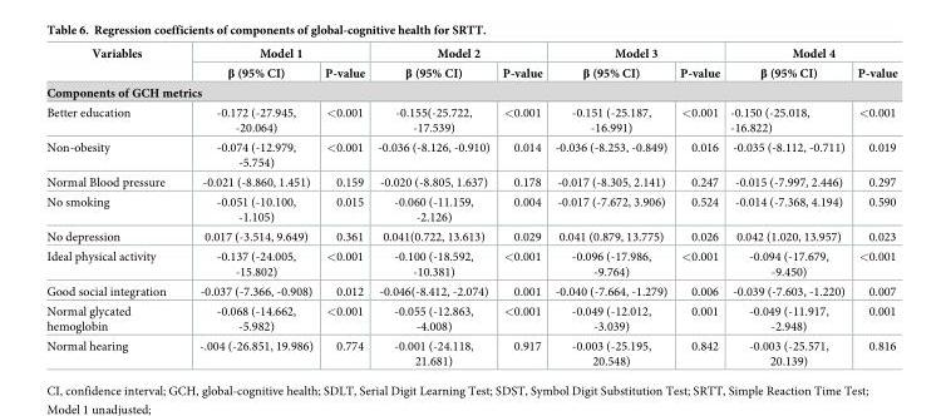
<table><thead><tr><td rowspan="2">Variables</td><td colspan="2">Model 1</td><td colspan="2">Model 2</td><td colspan="2">Model 3</td><td colspan="2">Model 4</td></tr><tr><td>β (95% CI)</td><td>P-value</td><td>β (95% CI)</td><td>P-value</td><td>β (95% CI)</td><td>P-value</td><td>β (95% CI)</td><td>P-value</td></tr><tr><td colspan="9">Components of GCH metrics</td></tr></thead><tbody><tr><td>Better education</td><td>-0.172 (-27.945, -20.064)</td><td>&lt;0.001</td><td>-0.155(-25.722, -17.539)</td><td>&lt;0.001</td><td>-0.151 (-25.187, -16.991)</td><td>&lt;0.001</td><td>-0.150 (-25.018, -16.822)</td><td>&lt;0.001</td></tr><tr><td>Non-obesity</td><td>-0.074 (-12.979, -5.754)</td><td>&lt;0.001</td><td>-0.036 (-8.126, -0.910)</td><td>0.014</td><td>-0.036 (-8.253, -0.849)</td><td>0.016</td><td>-0.035 (-8.112, -0.711)</td><td>0.019</td></tr><tr><td>Normal Blood pressure</td><td>-0.021 (-8.860, 1.451)</td><td>0.159</td><td>-0.020 (-8.805, 1.637)</td><td>0.178</td><td>-0.017 (-8.305, 2.141)</td><td>0.247</td><td>-0.015 (-7.997, 2.446)</td><td>0.297</td></tr><tr><td>No smoking</td><td>-0.051 (-10.100, -1.105)</td><td>0.015</td><td>-0.060 (-11.159, -2.126)</td><td>0.004</td><td>-0.017 (-7.672, 3.906)</td><td>0.524</td><td>-0.014 (-7.368, 4.194)</td><td>0.590</td></tr><tr><td>No depression</td><td>0.017 (-3.514, 9.649)</td><td>0.361</td><td>0.041(0.722, 13.613)</td><td>0.029</td><td>0.041 (0.879, 13.775)</td><td>0.026</td><td>0.042 (1.020, 13.957)</td><td>0.023</td></tr><tr><td>Ideal physical activity</td><td>-0.137 (-24.005, -15.802)</td><td>&lt;0.001</td><td>-0.100 (-18.592, -10.381)</td><td>&lt;0.001</td><td>-0.096 (-17.986, -9.764)</td><td>&lt;0.001</td><td>-0.094 (-17.679, -9.450)</td><td>&lt;0.001</td></tr><tr><td>Good social integration</td><td>-0.037 (-7.366, -0.908)</td><td>0.012</td><td>-0.046(-8.412, -2.074)</td><td>0.001</td><td>-0.040 (-7.664, -1.279)</td><td>0.006</td><td>-0.039 (-7.603, -1.220)</td><td>0.007</td></tr><tr><td>Normal glycated hemoglobin</td><td>-0.068 (-14.662, -5.982)</td><td>&lt;0.001</td><td>-0.055 (-12.863, -4.008)</td><td>&lt;0.001</td><td>-0.049 (-12.012, -3.039)</td><td>0.001</td><td>-0.049 (-11.917, -2.948)</td><td>0.001</td></tr><tr><td>Normal hearing</td><td>-.004 (-26.851, 19.986)</td><td>0.774</td><td>-0.001 (-24.118, 21.681)</td><td>0.917</td><td>-0.003 (-25.195, 20.548)</td><td>0.842</td><td>-0.003 (-25.571, 20.139)</td><td>0.816</td></tr></tbody></table>